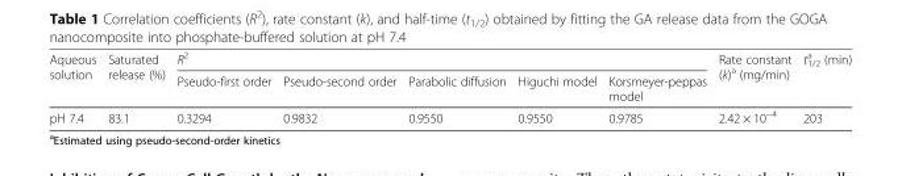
<table><thead><tr><td rowspan="2">Aqueous solution</td><td rowspan="2">Saturated release (%)</td><td colspan="5">R<sup>2</sup></td><td rowspan="2">Rate constant (k)<sup>a</sup> (mg/min)</td><td rowspan="2">t<sub>1/2</sub> <sup>a</sup> (min)</td></tr><tr><td>Pseudo-first order</td><td>Pseudo-second order</td><td>Parabolic diffusion</td><td>Higuchi model</td><td>Korsmeyer-peppas model</td></tr></thead><tbody><tr><td>pH 7.4</td><td>83.1</td><td>0.3294</td><td>0.9832</td><td>0.9550</td><td>0.9550</td><td>0.9785</td><td>2.42 × 10<sup>−4</sup></td><td>203</td></tr></tbody></table>